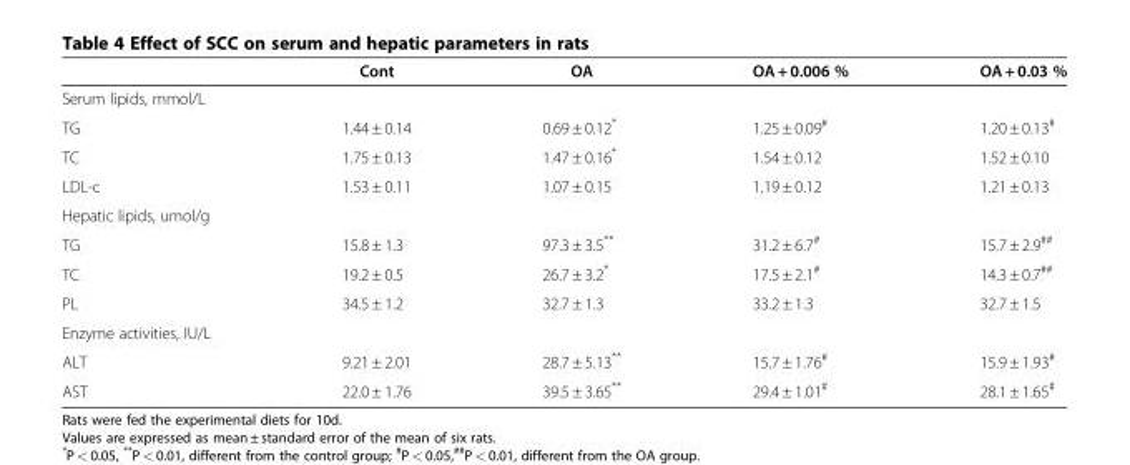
<table><thead><tr><td></td><td>Cont</td><td>OA</td><td>OA + 0.006 %</td><td>OA + 0.03 %</td></tr></thead><tbody><tr><td colspan="5">Serum lipids, mmol/L</td></tr><tr><td>TG</td><td>1.44 ± 0.14</td><td>0.69 ± 0.12*</td><td>1.25 ± 0.09<sup>#</sup></td><td>1.20 ± 0.13<sup>#</sup></td></tr><tr><td>TC</td><td>1.75 ± 0.13</td><td>1.47 ± 0.16*</td><td>1.54 ± 0.12</td><td>1.52 ± 0.10</td></tr><tr><td>LDL-c</td><td>1.53 ± 0.11</td><td>1.07 ± 0.15</td><td>1.19 ± 0.12</td><td>1.21 ± 0.13</td></tr><tr><td colspan="5">Hepatic lipids, umol/g</td></tr><tr><td>TG</td><td>15.8 ± 1.3</td><td>97.3 ± 3.5**</td><td>31.2 ± 6.7<sup>#</sup></td><td>15.7 ± 2.9<sup>##</sup></td></tr><tr><td>TC</td><td>19.2 ± 0.5</td><td>26.7 ± 3.2*</td><td>17.5 ± 2.1<sup>#</sup></td><td>14.3 ± 0.7<sup>##</sup></td></tr><tr><td>PL</td><td>34.5 ± 1.2</td><td>32.7 ± 1.3</td><td>33.2 ± 1.3</td><td>32.7 ± 1.5</td></tr><tr><td colspan="5">Enzyme activities, IU/L</td></tr><tr><td>ALT</td><td>9.21 ± 2.01</td><td>28.7 ± 5.13**</td><td>15.7 ± 1.76<sup>#</sup></td><td>15.9 ± 1.93<sup>#</sup></td></tr><tr><td>AST</td><td>22.0 ± 1.76</td><td>39.5 ± 3.65**</td><td>29.4 ± 1.01<sup>#</sup></td><td>28.1 ± 1.65<sup>#</sup></td></tr></tbody></table>